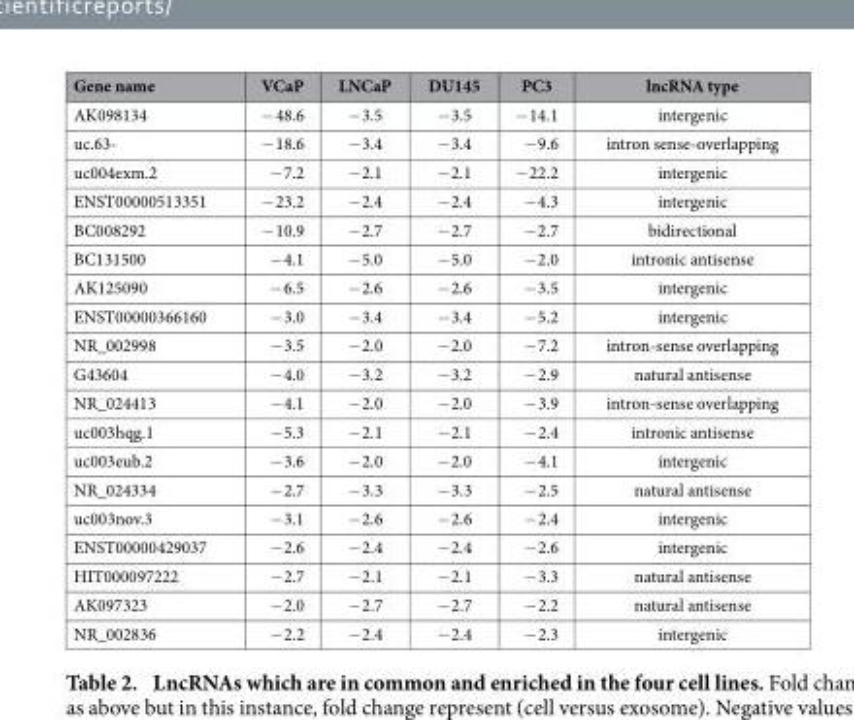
<table><thead><tr><td>Gene name</td><td>VCaP</td><td>LNCaP</td><td>DU145</td><td>PC3</td><td>lncRNA type</td></tr></thead><tbody><tr><td>AK098134</td><td>− 48.6</td><td>− 3.5</td><td>− 3.5</td><td>− 14.1</td><td>intergenic</td></tr><tr><td>uc.63-</td><td>− 18.6</td><td>− 3.4</td><td>− 3.4</td><td>− 9.6</td><td>intron sense-overlapping</td></tr><tr><td>uc004exm.2</td><td>− 7.2</td><td>− 2.1</td><td>− 2.1</td><td>− 22.2</td><td>intergenic</td></tr><tr><td>ENST00000513351</td><td>− 23.2</td><td>− 2.4</td><td>− 2.4</td><td>− 4.3</td><td>intergenic</td></tr><tr><td>BC008292</td><td>− 10.9</td><td>− 2.7</td><td>− 2.7</td><td>− 2.7</td><td>bidirectional</td></tr><tr><td>BC131500</td><td>− 4.1</td><td>− 5.0</td><td>− 5.0</td><td>− 2.0</td><td>intronic antisense</td></tr><tr><td>AK125090</td><td>− 6.5</td><td>− 2.6</td><td>− 2.6</td><td>− 3.5</td><td>intergenic</td></tr><tr><td>ENST00000366160</td><td>− 3.0</td><td>− 3.4</td><td>− 3.4</td><td>− 5.2</td><td>intergenic</td></tr><tr><td>NR_002998</td><td>− 3.5</td><td>− 2.0</td><td>− 2.0</td><td>− 7.2</td><td>intron-sense overlapping</td></tr><tr><td>G43604</td><td>− 4.0</td><td>− 3.2</td><td>− 3.2</td><td>− 2.9</td><td>natural antisense</td></tr><tr><td>NR_024413</td><td>− 4.1</td><td>− 2.0</td><td>− 2.0</td><td>− 3.9</td><td>intron-sense overlapping</td></tr><tr><td>uc003hqg.1</td><td>− 5.3</td><td>− 2.1</td><td>− 2.1</td><td>− 2.4</td><td>intronic antisense</td></tr><tr><td>uc003eub.2</td><td>− 3.6</td><td>− 2.0</td><td>− 2.0</td><td>− 4.1</td><td>intergenic</td></tr><tr><td>NR_024334</td><td>− 2.7</td><td>− 3.3</td><td>− 3.3</td><td>− 2.5</td><td>natural antisense</td></tr><tr><td>uc003nov.3</td><td>− 3.1</td><td>− 2.6</td><td>− 2.6</td><td>− 2.4</td><td>intergenic</td></tr><tr><td>ENST00000429037</td><td>− 2.6</td><td>− 2.4</td><td>− 2.4</td><td>− 2.6</td><td>intergenic</td></tr><tr><td>HIT000097222</td><td>− 2.7</td><td>− 2.1</td><td>− 2.1</td><td>− 3.3</td><td>natural antisense</td></tr><tr><td>AK097323</td><td>− 2.0</td><td>− 2.7</td><td>− 2.7</td><td>− 2.2</td><td>natural antisense</td></tr><tr><td>NR_002836</td><td>− 2.2</td><td>− 2.4</td><td>− 2.4</td><td>− 2.3</td><td>intergenic</td></tr></tbody></table>